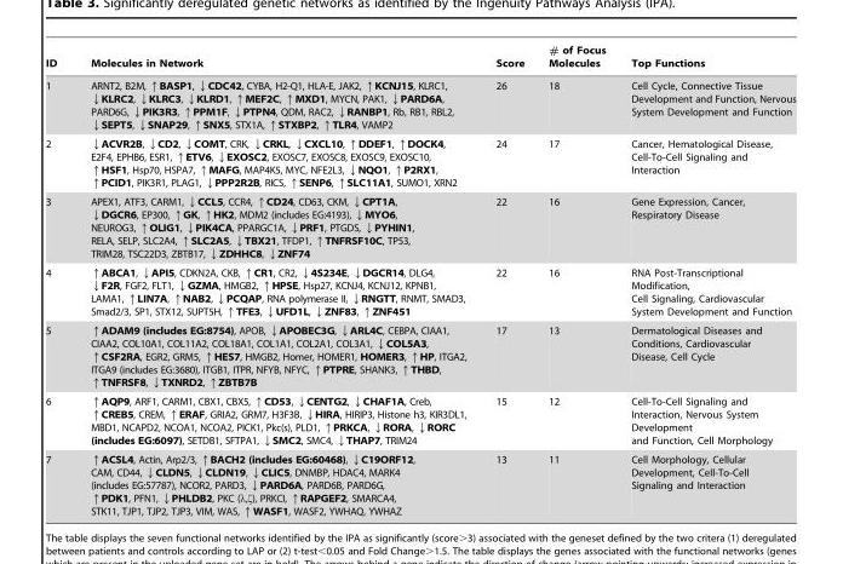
<table><thead><tr><td>ID</td><td>Molecules in Network</td><td>Score</td><td># of Focus Molecules</td><td>Top Functions</td></tr></thead><tbody><tr><td>1</td><td>ARNT2, B2M, ↑BASP1, ↓CDC42, CYBA, H2-Q1, HLA-E, JAK2, ↑KCNJ15, KLRC1, ↓KLRC2, ↓KLRC3, ↓KLRD1, ↑MEF2C, ↑MXD1, MYCN, PAK1, ↓PARD6A, PARD6G, ↓PIK3R3, ↑PPM1F, ↓PTPN4, QDM, RAC2, ↓RANBP1, Rb, RB1, RBL2, ↓SEPT5, ↓SNAP29, ↑SNX5, STX1A, ↑STXBP2, ↑TLR4, VAMP2</td><td>26</td><td>18</td><td>Cell Cycle, Connective Tissue Development and Function, Nervous System Development and Function</td></tr><tr><td>2</td><td>↓ACVR2B, ↓CD2, ↓COMT, CRK, ↓CRKL, ↓CXCL10, ↑DDEF1, ↑DOCK4, E2F4, EPHB6, ESR1, ↑ETV6, ↓EXOSC2, EXOSC7, EXOSC8, EXOSC9, EXOSC10, ↑HSF1, Hsp70, HSPA7, ↑MAFG, MAP4K5, MYC, NFE2L3, ↓NQO1, ↑P2RX1, ↑PCID1, PIK3R1, PLAG1, ↓PPP2R2B, RICS, ↑SENP6, ↑SLC11A1, SUMO1, XRN2</td><td>24</td><td>17</td><td>Cancer, Hematological Disease, Cell-To-Cell Signaling and Interaction</td></tr><tr><td>3</td><td>APEX1, ATF3, CARM1, ↓CCL5, CCR4, ↑CD24, CD63, CKM, ↓CPT1A, ↓DGCR6, EP300, ↑GK, ↑HK2, MDM2 (includes EG:4193), ↓MYO6, NEUROG3, ↑OLIG1, ↓PIK4CA, PPARGC1A, ↓PRF1, PTGDS, ↓PYHIN1, RELA, SELP, SLC2A4, ↑SLC2A5, ↓TBX21, TFDP1, ↑TNFRSF10C, TP53, TRIM28, TSC22D3, ZBTB17, ↓ZDHHC8, ↓ZNF74</td><td>22</td><td>16</td><td>Gene Expression, Cancer, Respiratory Disease</td></tr><tr><td>4</td><td>↑ABCA1, ↓API5, CDKN2A, CKB, ↑CR1, CR2, ↓4S234E, ↓DGCR14, DLG4, ↓F2R, FGF2, FLT1, ↓GZMA, HMGB2, ↑HPSE, Hsp27, KCNJ4, KCNJ12, KPNB1, LAMA1, ↑LIN7A, ↑NAB2, ↓PCQAP, RNA polymerase II, ↓RNGTT, RNMT, SMAD3, Smad2/3, SP1, STX12, SUPT5H, ↑TFE3, ↓UFD1L, ↓ZNF83, ↑ZNF451</td><td>22</td><td>16</td><td>RNA Post-Transcriptional Modification, Cell Signaling, Cardiovascular System Development and Function</td></tr><tr><td>5</td><td>↑ADAM9 (includes EG:8754), APOB, ↓APOBEC3G, ↓ARL4C, CEBPA, CIAA1, CIAA2, COL10A1, COL11A2, COL18A1, COL1A1, COL2A1, COL3A1, ↓COL5A3, ↑CSF2RA, EGR2, GRM5, ↑HES7, HMGB2, Homer, HOMER1, HOMER3, ↑HP, ITGA2, ITGA9 (includes EG:3680), ITGB1, ITPR, NFYB, NFYC, ↑PTPRE, SHANK3, ↑THBD, ↑TNFRSF8, ↓TXNRD2, ↑ZBTB7B</td><td>17</td><td>13</td><td>Dermatological Diseases and Conditions, Cardiovascular Disease, Cell Cycle</td></tr><tr><td>6</td><td>↑AQP9, ARF1, CARM1, CBX1, CBX5, ↑CD53, ↓CENTG2, ↓CHAF1A, Creb, ↑CREB5, CREM, ↑ERAF, GRIA2, GRM7, H3F3B, ↓HIRA, HIRIP3, Histone h3, KIR3DL1, MBD1, NCAPD2, NCOA1, NCOA2, PICK1, Pkc(s), PLD1, ↑PRKCA, ↓RORA, ↓RORC (includes EG:6097), SETDB1, SFTPA1, ↓SMC2, SMC4, ↓THAP7, TRIM24</td><td>15</td><td>12</td><td>Cell-To-Cell Signaling and Interaction, Nervous System Development and Function, Cell Morphology</td></tr><tr><td>7</td><td>↑ACSL4, Actin, Arp2/3, ↑BACH2 (includes EG:60468), ↓C19ORF12, CAM, CD44, ↓CLDN5, ↓CLDN19, ↓CLIC5, DNMBP, HDAC4, MARK4 (includes EG:57787), NCOR2, PARD3, ↓PARD6A, PARD6B, PARD6G, ↑PDK1, PFN1, ↓PHLDB2, PKC (λ,ζ), PRKCI, ↑RAPGEF2, SMARCA4, STK11, TJP1, TJP2, TJP3, VIM, WAS, ↑WASF1, WASF2, YWHAQ, YWHAZ</td><td>13</td><td>11</td><td>Cell Morphology, Cellular Development, Cell-To-Cell Signaling and Interaction</td></tr></tbody></table>